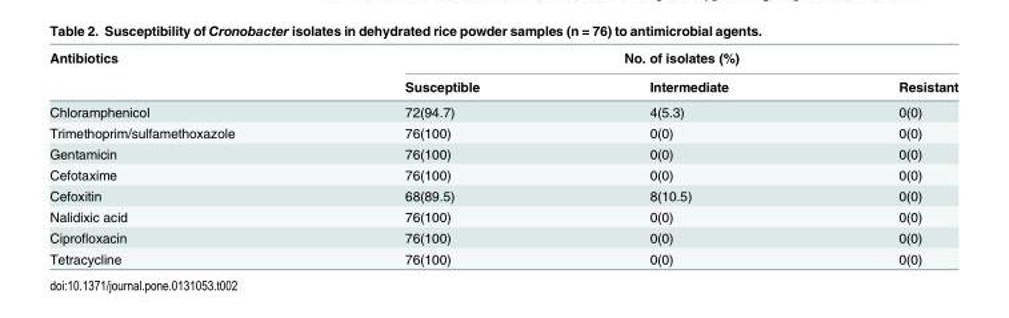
<table><thead><tr><td rowspan="2">Antibiotics</td><td colspan="3">No. of isolates (%)</td></tr><tr><td>Susceptible</td><td>Intermediate</td><td>Resistant</td></tr></thead><tbody><tr><td>Chloramphenicol</td><td>72(94.7)</td><td>4(5.3)</td><td>0(0)</td></tr><tr><td>Trimethoprim/sulfamethoxazole</td><td>76(100)</td><td>0(0)</td><td>0(0)</td></tr><tr><td>Gentamicin</td><td>76(100)</td><td>0(0)</td><td>0(0)</td></tr><tr><td>Cefotaxime</td><td>76(100)</td><td>0(0)</td><td>0(0)</td></tr><tr><td>Cefoxitin</td><td>68(89.5)</td><td>8(10.5)</td><td>0(0)</td></tr><tr><td>Nalidixic acid</td><td>76(100)</td><td>0(0)</td><td>0(0)</td></tr><tr><td>Ciprofloxacin</td><td>76(100)</td><td>0(0)</td><td>0(0)</td></tr><tr><td>Tetracycline</td><td>76(100)</td><td>0(0)</td><td>0(0)</td></tr></tbody></table>